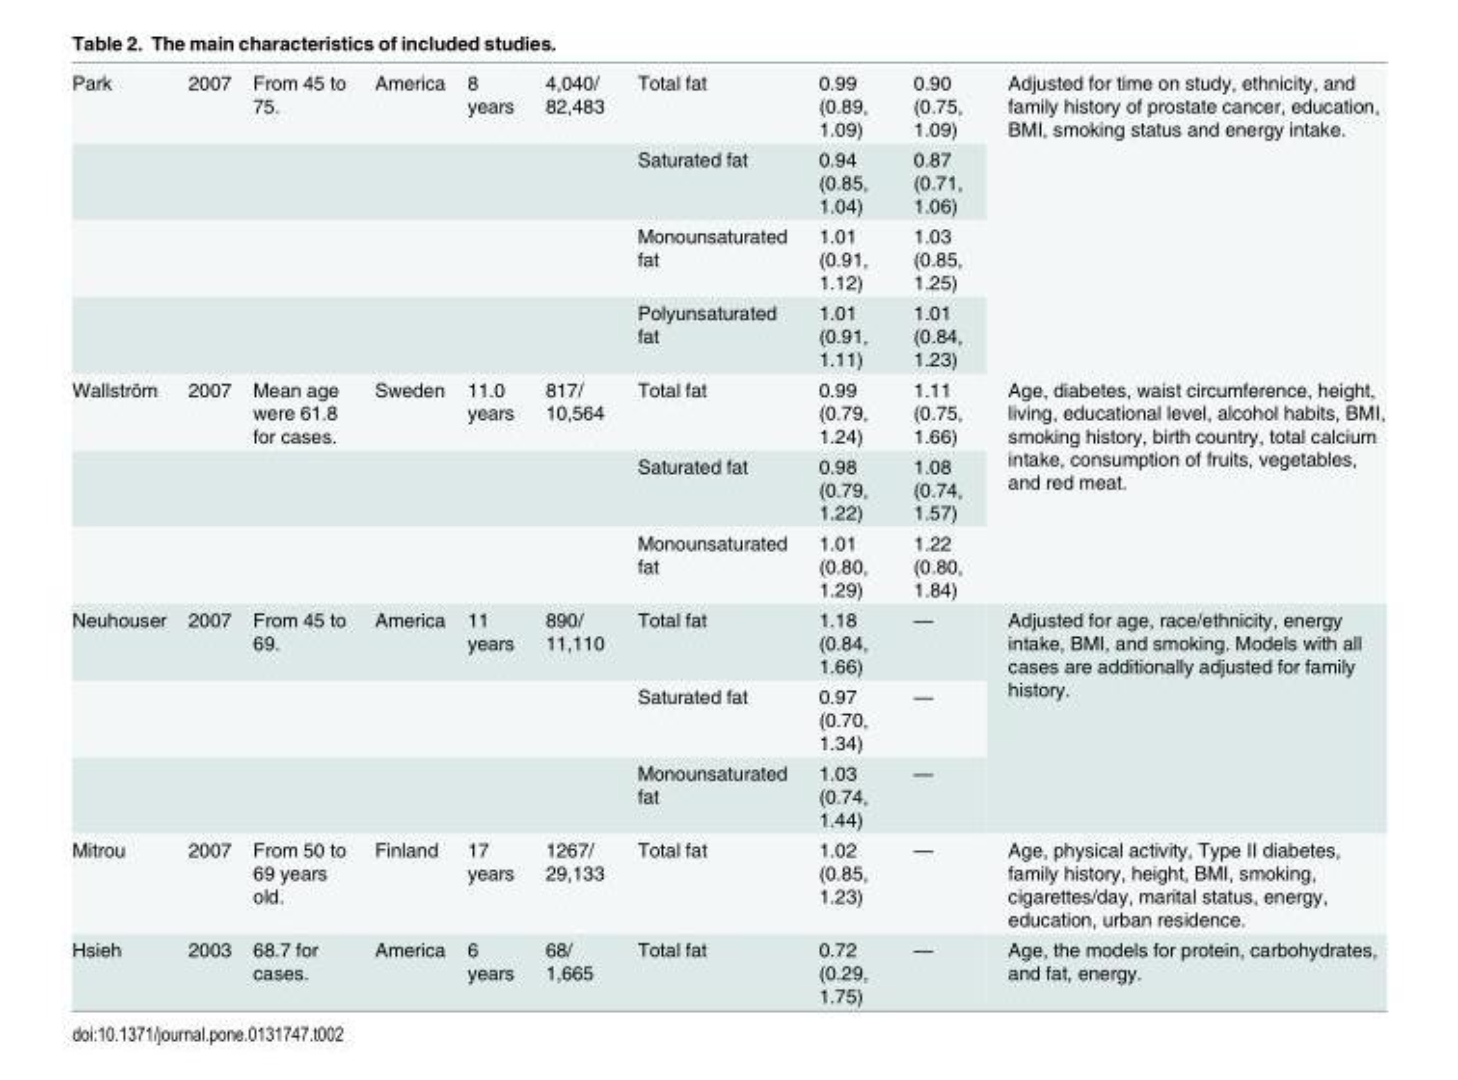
<table><tbody><tr><td rowspan="4">Park</td><td>2007</td><td>From 45 to 75.</td><td>America</td><td>8 years</td><td>4,040/ 82,483</td><td>Total fat</td><td>0.99 (0.89, 1.09)</td><td>0.90 (0.75, 1.09)</td><td rowspan="4">Adjusted for time on study, ethnicity, and family history of prostate cancer, education, BMI, smoking status and energy intake.</td></tr><tr><td></td><td></td><td></td><td></td><td></td><td>Saturated fat</td><td>0.94 (0.85, 1.04)</td><td>0.87 (0.71, 1.06)</td></tr><tr><td></td><td></td><td></td><td></td><td></td><td>Monounsaturated fat</td><td>1.01 (0.91, 1.12)</td><td>1.03 (0.85, 1.25)</td></tr><tr><td></td><td></td><td></td><td></td><td></td><td>Polyunsaturated fat</td><td>1.01 (0.91, 1.11)</td><td>1.01 (0.84, 1.23)</td></tr><tr><td rowspan="3">Wallström</td><td>2007</td><td>Mean age were 61.8 for cases.</td><td>Sweden</td><td>11.0 years</td><td>817/ 10,564</td><td>Total fat</td><td>0.99 (0.79, 1.24)</td><td>1.11 (0.75, 1.66)</td><td rowspan="3">Age, diabetes, waist circumference, height, living, educational level, alcohol habits, BMI, smoking history, birth country, total calcium intake, consumption of fruits, vegetables, and red meat.</td></tr><tr><td></td><td></td><td></td><td></td><td></td><td>Saturated fat</td><td>0.98 (0.79, 1.22)</td><td>1.08 (0.74, 1.57)</td></tr><tr><td></td><td></td><td></td><td></td><td></td><td>Monounsaturated fat</td><td>1.01 (0.80, 1.29)</td><td>1.22 (0.80, 1.84)</td></tr><tr><td rowspan="3">Neuhouser</td><td>2007</td><td>From 45 to 69.</td><td>America</td><td>11 years</td><td>890/ 11,110</td><td>Total fat</td><td>1.18 (0.84, 1.66)</td><td>—</td><td rowspan="3">Adjusted for age, race/ethnicity, energy intake, BMI, and smoking. Models with all cases are additionally adjusted for family history.</td></tr><tr><td></td><td></td><td></td><td></td><td></td><td>Saturated fat</td><td>0.97 (0.70, 1.34)</td><td>—</td></tr><tr><td></td><td></td><td></td><td></td><td></td><td>Monounsaturated fat</td><td>1.03 (0.74, 1.44)</td><td>—</td></tr><tr><td>Mitrou</td><td>2007</td><td>From 50 to 69 years old.</td><td>Finland</td><td>17 years</td><td>1267/ 29,133</td><td>Total fat</td><td>1.02 (0.85, 1.23)</td><td>—</td><td>Age, physical activity, Type II diabetes, family history, height, BMI, smoking, cigarettes/day, marital status, energy, education, urban residence.</td></tr><tr><td>Hsieh</td><td>2003</td><td>68.7 for cases.</td><td>America</td><td>6 years</td><td>68/ 1,665</td><td>Total fat</td><td>0.72 (0.29, 1.75)</td><td>—</td><td>Age, the models for protein, carbohydrates, and fat, energy.</td></tr></tbody></table>